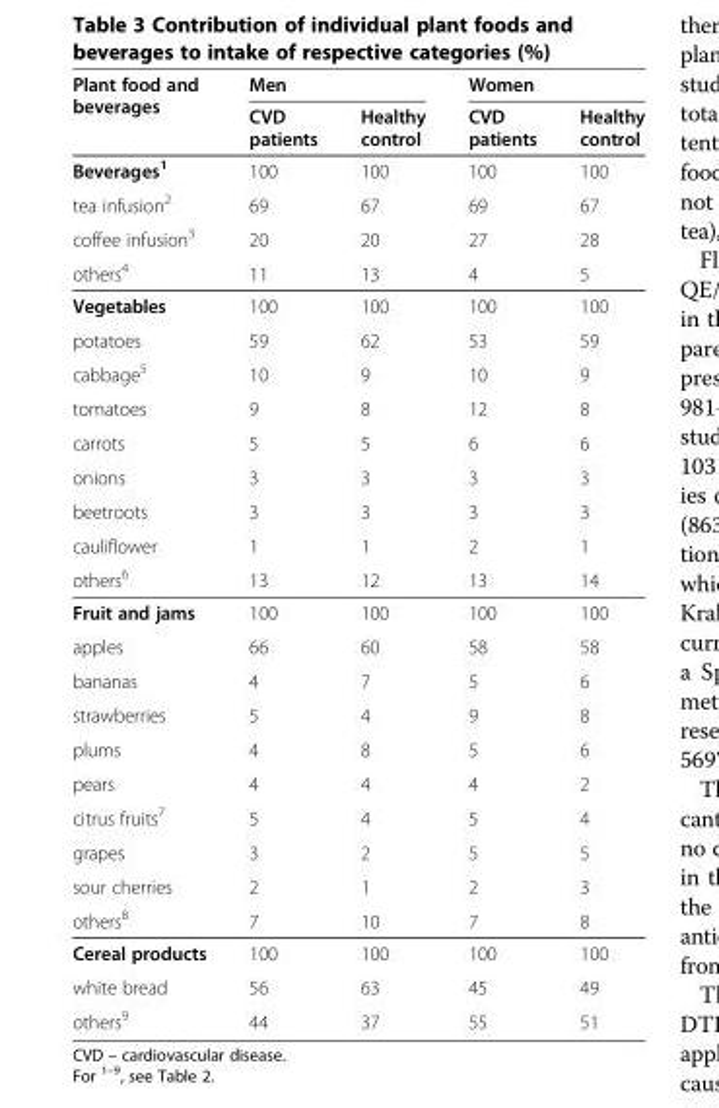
<table><thead><tr><td rowspan="2">Plant food and beverages</td><td colspan="2">Men</td><td colspan="2">Women</td></tr><tr><td>CVD patients</td><td>Healthy control</td><td>CVD patients</td><td>Healthy control</td></tr></thead><tbody><tr><td>Beverages<sup>1</sup></td><td>100</td><td>100</td><td>100</td><td>100</td></tr><tr><td>tea infusion<sup>2</sup></td><td>69</td><td>67</td><td>69</td><td>67</td></tr><tr><td>coffee infusion<sup>3</sup></td><td>20</td><td>20</td><td>27</td><td>28</td></tr><tr><td>others<sup>4</sup></td><td>11</td><td>13</td><td>4</td><td>5</td></tr><tr><td>Vegetables</td><td>100</td><td>100</td><td>100</td><td>100</td></tr><tr><td>potatoes</td><td>59</td><td>62</td><td>53</td><td>59</td></tr><tr><td>cabbage<sup>5</sup></td><td>10</td><td>9</td><td>10</td><td>9</td></tr><tr><td>tomatoes</td><td>9</td><td>8</td><td>12</td><td>8</td></tr><tr><td>carrots</td><td>5</td><td>5</td><td>6</td><td>6</td></tr><tr><td>onions</td><td>3</td><td>3</td><td>3</td><td>3</td></tr><tr><td>beetroots</td><td>3</td><td>3</td><td>3</td><td>3</td></tr><tr><td>cauliflower</td><td>1</td><td>1</td><td>2</td><td>1</td></tr><tr><td>others<sup>6</sup></td><td>13</td><td>12</td><td>13</td><td>14</td></tr><tr><td>Fruit and jams</td><td>100</td><td>100</td><td>100</td><td>100</td></tr><tr><td>apples</td><td>66</td><td>60</td><td>58</td><td>58</td></tr><tr><td>bananas</td><td>4</td><td>7</td><td>5</td><td>6</td></tr><tr><td>strawberries</td><td>5</td><td>4</td><td>9</td><td>8</td></tr><tr><td>plums</td><td>4</td><td>8</td><td>5</td><td>6</td></tr><tr><td>pears</td><td>4</td><td>4</td><td>4</td><td>2</td></tr><tr><td>citrus fruits<sup>7</sup></td><td>5</td><td>4</td><td>5</td><td>4</td></tr><tr><td>grapes</td><td>3</td><td>2</td><td>5</td><td>5</td></tr><tr><td>sour cherries</td><td>2</td><td>1</td><td>2</td><td>3</td></tr><tr><td>others<sup>8</sup></td><td>7</td><td>10</td><td>7</td><td>8</td></tr><tr><td>Cereal products</td><td>100</td><td>100</td><td>100</td><td>100</td></tr><tr><td>white bread</td><td>56</td><td>63</td><td>45</td><td>49</td></tr><tr><td>others<sup>9</sup></td><td>44</td><td>37</td><td>55</td><td>51</td></tr></tbody></table>